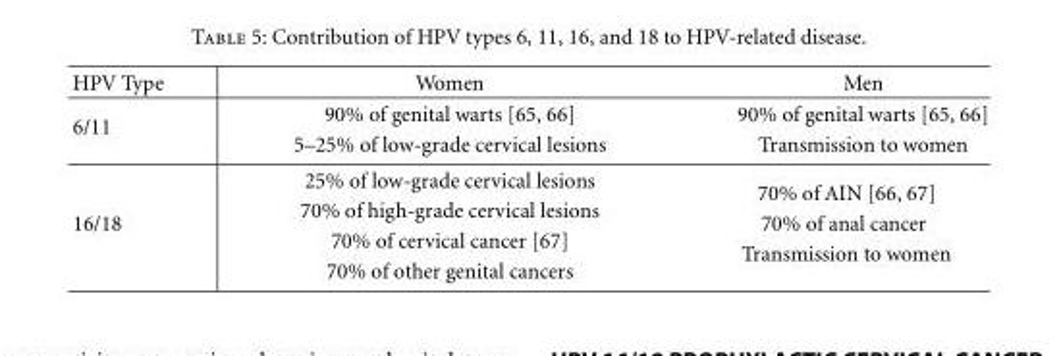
<table><tbody><tr><td>HPV Type</td><td>Women</td><td>Men</td></tr><tr><td rowspan="2">6/11</td><td>90% of genital warts [65, 66]</td><td>90% of genital warts [65, 66]</td></tr><tr><td>5–25% of low-grade cervical lesions</td><td>Transmission to women</td></tr><tr><td rowspan="4">16/18</td><td>25% of low-grade cervical lesions</td><td rowspan="4">70% of AIN [66, 67] 70% of anal cancer Transmission to women</td></tr><tr><td>70% of high-grade cervical lesions</td></tr><tr><td>70% of cervical cancer [67]</td></tr><tr><td>70% of other genital cancers</td></tr></tbody></table>